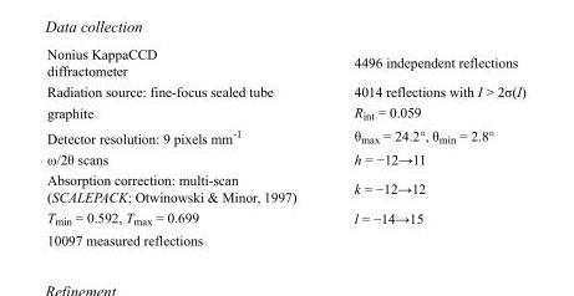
<table><tbody><tr><td>Nonius KappaCCD diffractometer</td><td>4496 independent reflections</td></tr><tr><td>Radiation source: fine-focus sealed tube</td><td>4014 reflections with I &gt; 2σ(I)</td></tr><tr><td>graphite</td><td>R<sub>int</sub> = 0.059</td></tr><tr><td>Detector resolution: 9 pixels mm<sup>-1</sup></td><td>θ<sub>max</sub> = 24.2°, θ<sub>min</sub> = 2.8°</td></tr><tr><td>ω/2θ scans</td><td>h = −12→11</td></tr><tr><td>Absorption correction: multi-scan (SCALEPACK; Otwinowski &amp; Minor, 1997)</td><td>k = −12→12</td></tr><tr><td>T<sub>min</sub> = 0.592, T<sub>max</sub> = 0.699</td><td>l = −14→15</td></tr><tr><td>10097 measured reflections</td><td></td></tr></tbody></table>